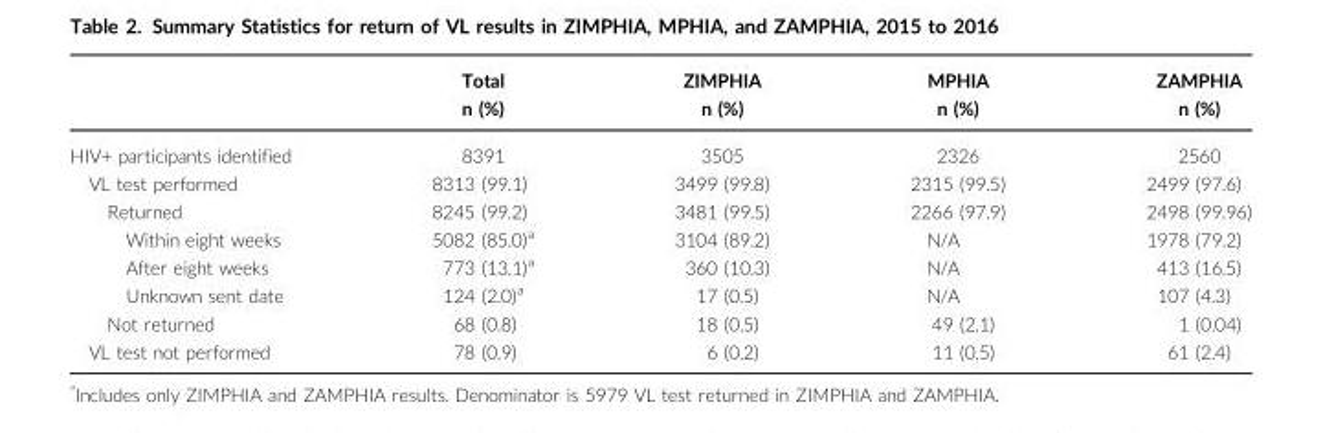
<table><thead><tr><td rowspan="2"></td><td rowspan="2">Total n (%)</td><td rowspan="2">ZIMPHIA n (%)</td><td rowspan="2">MPHIA n (%)</td><td rowspan="2">ZAMPHIA n (%)</td></tr><tr></tr></thead><tbody><tr><td>HIV+ participants identified</td><td>8391</td><td>3505</td><td>2326</td><td>2560</td></tr><tr><td>VL test performed</td><td>8313 (99.1)</td><td>3499 (99.8)</td><td>2315 (99.5)</td><td>2499 (97.6)</td></tr><tr><td>Returned</td><td>8245 (99.2)</td><td>3481 (99.5)</td><td>2266 (97.9)</td><td>2498 (99.96)</td></tr><tr><td>Within eight weeks</td><td>5082 (85.0)<sup>a</sup></td><td>3104 (89.2)</td><td>N/A</td><td>1978 (79.2)</td></tr><tr><td>After eight weeks</td><td>773 (13.1)<sup>a</sup></td><td>360 (10.3)</td><td>N/A</td><td>413 (16.5)</td></tr><tr><td>Unknown sent date</td><td>124 (2.0)<sup>a</sup></td><td>17 (0.5)</td><td>N/A</td><td>107 (4.3)</td></tr><tr><td>Not returned</td><td>68 (0.8)</td><td>18 (0.5)</td><td>49 (2.1)</td><td>1 (0.04)</td></tr><tr><td>VL test not performed</td><td>78 (0.9)</td><td>6 (0.2)</td><td>11 (0.5)</td><td>61 (2.4)</td></tr></tbody></table>